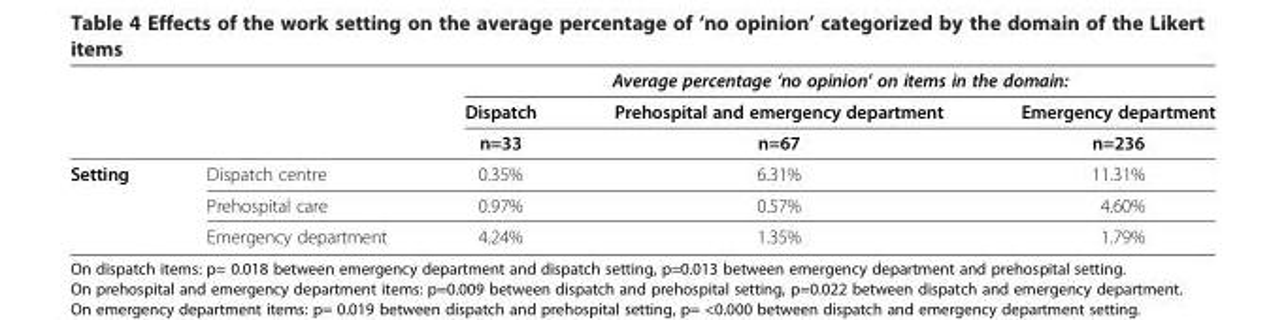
<table><thead><tr><td rowspan="3"></td><td rowspan="3"></td><td colspan="3">Average percentage ‘no opinion’ on items in the domain:</td></tr><tr><td rowspan="2">Dispatch n=33</td><td rowspan="2">Prehospital and emergency department n=67</td><td rowspan="2">Emergency department n=236</td></tr><tr></tr></thead><tbody><tr><td rowspan="3">Setting</td><td>Dispatch centre</td><td>0.35%</td><td>6.31%</td><td>11.31%</td></tr><tr><td>Prehospital care</td><td>0.97%</td><td>0.57%</td><td>4.60%</td></tr><tr><td>Emergency department</td><td>4.24%</td><td>1.35%</td><td>1.79%</td></tr></tbody></table>